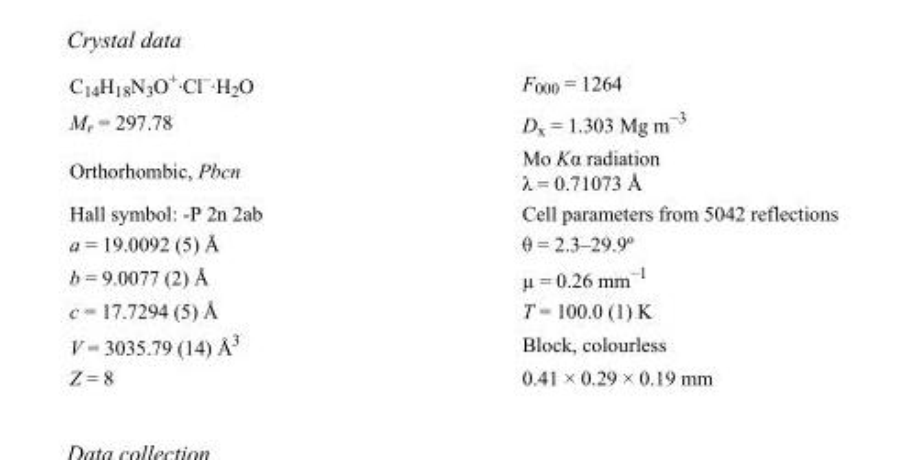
<table><tbody><tr><td>C<sub>14</sub>H<sub>18</sub>N<sub>3</sub>O<sup>+</sup>·Cl<sup>–</sup>·H<sub>2</sub>O</td><td>F000 = 1264</td></tr><tr><td>M<sub>r</sub> = 297.78</td><td>D<sub>x</sub> = 1.303 Mg m<sup>−3</sup></td></tr><tr><td>Orthorhombic, Pbcn</td><td>Mo Kα radiation λ = 0.71073 Å</td></tr><tr><td>Hall symbol: -P 2n 2ab</td><td>Cell parameters from 5042 reflections</td></tr><tr><td>a = 19.0092 (5) Å</td><td>θ = 2.3–29.9º</td></tr><tr><td>b = 9.0077 (2) Å</td><td>µ = 0.26 mm<sup>−1</sup></td></tr><tr><td>c = 17.7294 (5) Å</td><td>T = 100.0 (1) K</td></tr><tr><td>V = 3035.79 (14) Å<sup>3</sup></td><td>Block, colourless</td></tr><tr><td>Z = 8</td><td>0.41 × 0.29 × 0.19 mm</td></tr></tbody></table>